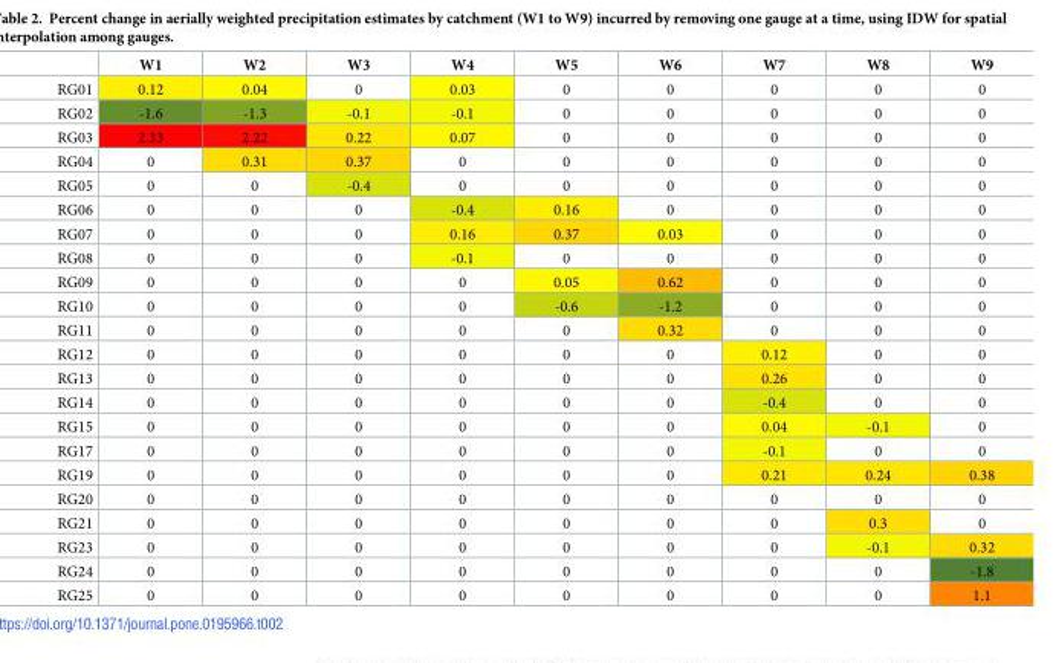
<table><thead><tr><td></td><td>W1</td><td>W2</td><td>W3</td><td>W4</td><td>W5</td><td>W6</td><td>W7</td><td>W8</td><td>W9</td></tr></thead><tbody><tr><td>RG01</td><td>0.12</td><td>0.04</td><td>0</td><td>0.03</td><td>0</td><td>0</td><td>0</td><td>0</td><td>0</td></tr><tr><td>RG02</td><td>-1.6</td><td>-1.3</td><td>-0.1</td><td>-0.1</td><td>0</td><td>0</td><td>0</td><td>0</td><td>0</td></tr><tr><td>RG03</td><td>2.33</td><td>2.22</td><td>0.22</td><td>0.07</td><td>0</td><td>0</td><td>0</td><td>0</td><td>0</td></tr><tr><td>RG04</td><td>0</td><td>0.31</td><td>0.37</td><td>0</td><td>0</td><td>0</td><td>0</td><td>0</td><td>0</td></tr><tr><td>RG05</td><td>0</td><td>0</td><td>-0.4</td><td>0</td><td>0</td><td>0</td><td>0</td><td>0</td><td>0</td></tr><tr><td>RG06</td><td>0</td><td>0</td><td>0</td><td>-0.4</td><td>0.16</td><td>0</td><td>0</td><td>0</td><td>0</td></tr><tr><td>RG07</td><td>0</td><td>0</td><td>0</td><td>0.16</td><td>0.37</td><td>0.03</td><td>0</td><td>0</td><td>0</td></tr><tr><td>RG08</td><td>0</td><td>0</td><td>0</td><td>-0.1</td><td>0</td><td>0</td><td>0</td><td>0</td><td>0</td></tr><tr><td>RG09</td><td>0</td><td>0</td><td>0</td><td>0</td><td>0.05</td><td>0.62</td><td>0</td><td>0</td><td>0</td></tr><tr><td>RG10</td><td>0</td><td>0</td><td>0</td><td>0</td><td>-0.6</td><td>-1.2</td><td>0</td><td>0</td><td>0</td></tr><tr><td>RG11</td><td>0</td><td>0</td><td>0</td><td>0</td><td>0</td><td>0.32</td><td>0</td><td>0</td><td>0</td></tr><tr><td>RG12</td><td>0</td><td>0</td><td>0</td><td>0</td><td>0</td><td>0</td><td>0.12</td><td>0</td><td>0</td></tr><tr><td>RG13</td><td>0</td><td>0</td><td>0</td><td>0</td><td>0</td><td>0</td><td>0.26</td><td>0</td><td>0</td></tr><tr><td>RG14</td><td>0</td><td>0</td><td>0</td><td>0</td><td>0</td><td>0</td><td>-0.4</td><td>0</td><td>0</td></tr><tr><td>RG15</td><td>0</td><td>0</td><td>0</td><td>0</td><td>0</td><td>0</td><td>0.04</td><td>-0.1</td><td>0</td></tr><tr><td>RG17</td><td>0</td><td>0</td><td>0</td><td>0</td><td>0</td><td>0</td><td>-0.1</td><td>0</td><td>0</td></tr><tr><td>RG19</td><td>0</td><td>0</td><td>0</td><td>0</td><td>0</td><td>0</td><td>0.21</td><td>0.24</td><td>0.38</td></tr><tr><td>RG20</td><td>0</td><td>0</td><td>0</td><td>0</td><td>0</td><td>0</td><td>0</td><td>0</td><td>0</td></tr><tr><td>RG21</td><td>0</td><td>0</td><td>0</td><td>0</td><td>0</td><td>0</td><td>0</td><td>0.3</td><td>0</td></tr><tr><td>RG23</td><td>0</td><td>0</td><td>0</td><td>0</td><td>0</td><td>0</td><td>0</td><td>-0.1</td><td>0.32</td></tr><tr><td>RG24</td><td>0</td><td>0</td><td>0</td><td>0</td><td>0</td><td>0</td><td>0</td><td>0</td><td>-1.8</td></tr><tr><td>RG25</td><td>0</td><td>0</td><td>0</td><td>0</td><td>0</td><td>0</td><td>0</td><td>0</td><td>1.1</td></tr></tbody></table>